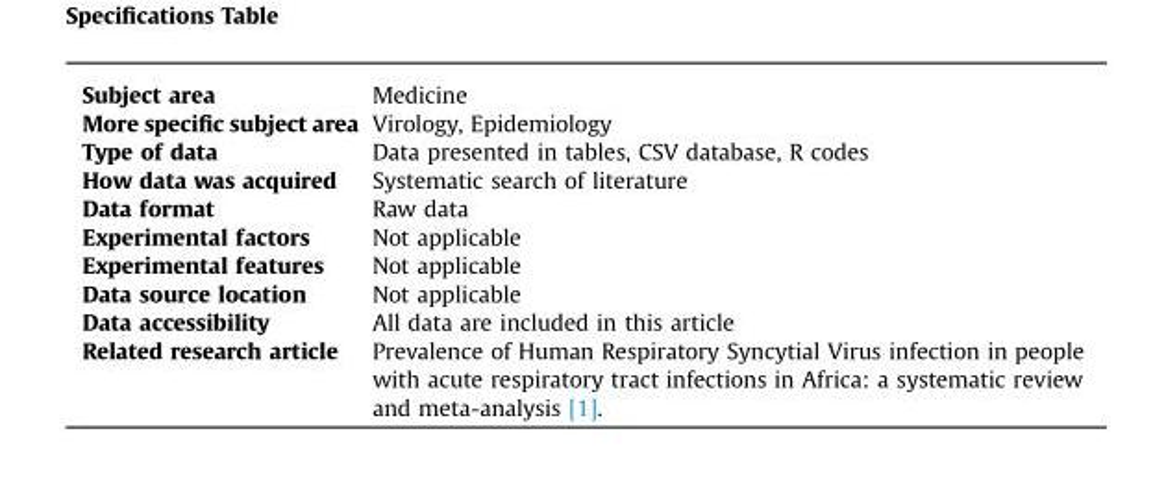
<table><tbody><tr><td>Subject area</td><td>Medicine</td></tr><tr><td>More specific subject area</td><td>Virology, Epidemiology</td></tr><tr><td>Type of data</td><td>Data presented in tables, CSV database, R codes</td></tr><tr><td>How data was acquired</td><td>Systematic search of literature</td></tr><tr><td>Data format</td><td>Raw data</td></tr><tr><td>Experimental factors</td><td>Not applicable</td></tr><tr><td>Experimental features</td><td>Not applicable</td></tr><tr><td>Data source location</td><td>Not applicable</td></tr><tr><td>Data accessibility</td><td>All data are included in this article</td></tr><tr><td>Related research article</td><td>Prevalence of Human Respiratory Syncytial Virus infection in people with acute respiratory tract infections in Africa: a systematic review and meta-analysis [1].</td></tr></tbody></table>